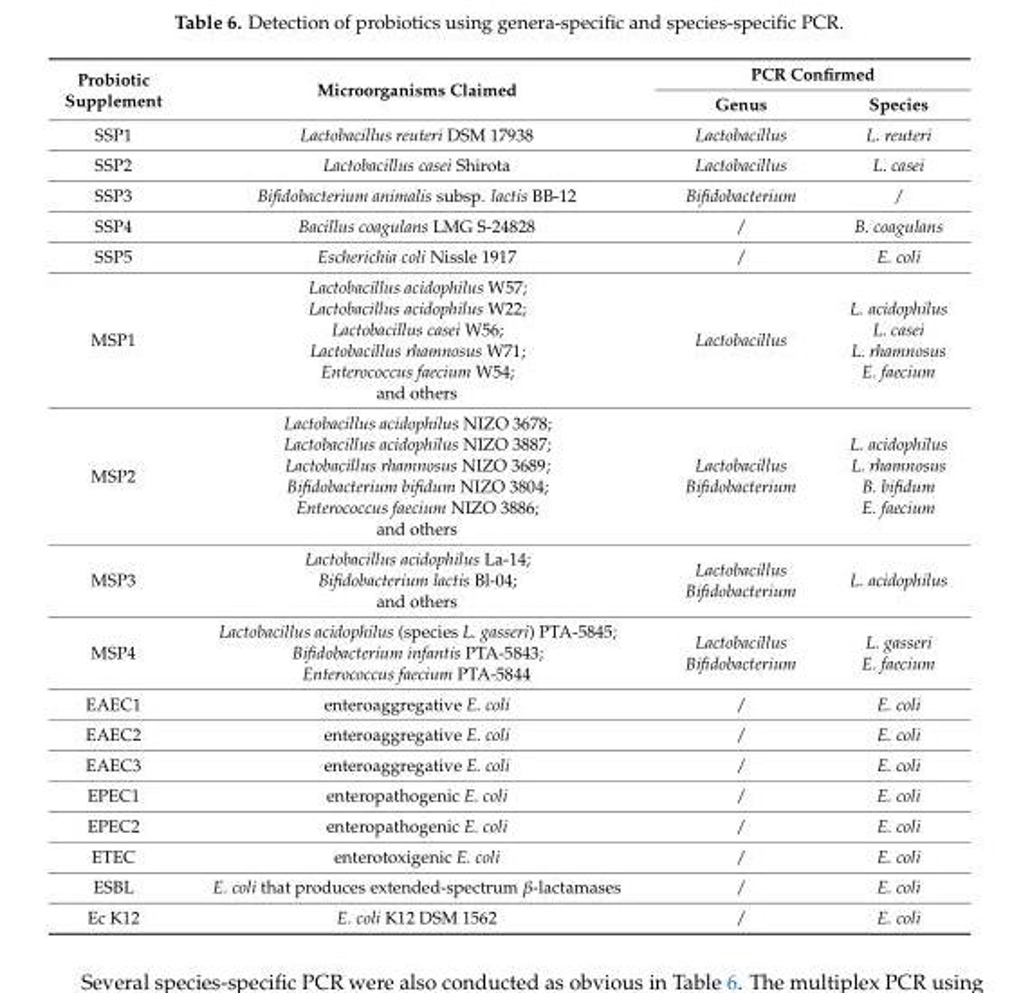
<table><thead><tr><td rowspan="2">Probiotic Supplement</td><td rowspan="2">Microorganisms Claimed</td><td colspan="2">PCR Confirmed</td></tr><tr><td>Genus</td><td>Species</td></tr></thead><tbody><tr><td>SSP1</td><td>Lactobacillus reuteri DSM 17938</td><td>Lactobacillus</td><td>L. reuteri</td></tr><tr><td>SSP2</td><td>Lactobacillus casei Shirota</td><td>Lactobacillus</td><td>L. casei</td></tr><tr><td>SSP3</td><td>Bifidobacterium animalis subsp. lactis BB-12</td><td>Bifidobacterium</td><td>/</td></tr><tr><td>SSP4</td><td>Bacillus coagulans LMG S-24828</td><td>/</td><td>B. coagulans</td></tr><tr><td>SSP5</td><td>Escherichia coli Nissle 1917</td><td>/</td><td>E. coli</td></tr><tr><td>MSP1</td><td>Lactobacillus acidophilus W57; Lactobacillus acidophilus W22; Lactobacillus casei W56; Lactobacillus rhamnosus W71; Enterococcus faecium W54; and others</td><td>Lactobacillus</td><td>L. acidophilus L. casei L. rhamnosus E. faecium</td></tr><tr><td>MSP2</td><td>Lactobacillus acidophilus NIZO 3678; Lactobacillus acidophilus NIZO 3887; Lactobacillus rhamnosus NIZO 3689; Bifidobacterium bifidum NIZO 3804; Enterococcus faecium NIZO 3886; and others</td><td>Lactobacillus Bifidobacterium</td><td>L. acidophilus L. rhamnosus B. bifidum E. faecium</td></tr><tr><td>MSP3</td><td>Lactobacillus acidophilus La-14; Bifidobacterium lactis Bl-04; and others</td><td>Lactobacillus Bifidobacterium</td><td>L. acidophilus</td></tr><tr><td>MSP4</td><td>Lactobacillus acidophilus (species L. gasseri) PTA-5845; Bifidobacterium infantis PTA-5843; Enterococcus faecium PTA-5844</td><td>Lactobacillus Bifidobacterium</td><td>L. gasseri E. faecium</td></tr><tr><td>EAEC1</td><td>enteroaggregative E. coli</td><td>/</td><td>E. coli</td></tr><tr><td>EAEC2</td><td>enteroaggregative E. coli</td><td>/</td><td>E. coli</td></tr><tr><td>EAEC3</td><td>enteroaggregative E. coli</td><td>/</td><td>E. coli</td></tr><tr><td>EPEC1</td><td>enteropathogenic E. coli</td><td>/</td><td>E. coli</td></tr><tr><td>EPEC2</td><td>enteropathogenic E. coli</td><td>/</td><td>E. coli</td></tr><tr><td>ETEC</td><td>enterotoxigenic E. coli</td><td>/</td><td>E. coli</td></tr><tr><td>ESBL</td><td>E. coli that produces extended-spectrum β-lactamases</td><td>/</td><td>E. coli</td></tr><tr><td>Ec K12</td><td>E. coli K12 DSM 1562</td><td>/</td><td>E. coli</td></tr></tbody></table>